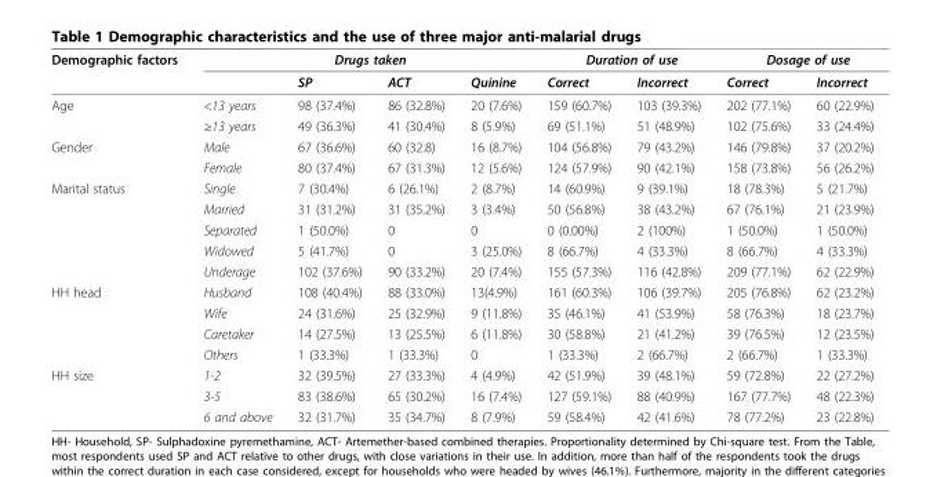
<table><thead><tr><td rowspan="2">Demographic factors</td><td colspan="4">Drugs taken</td><td colspan="2">Duration of use</td><td colspan="2">Dosage of use</td></tr><tr><td></td><td>SP</td><td>ACT</td><td>Quinine</td><td>Correct</td><td>Incorrect</td><td>Correct</td><td>Incorrect</td></tr></thead><tbody><tr><td rowspan="2">Age</td><td>&lt;13 years</td><td>98 (37.4%)</td><td>86 (32.8%)</td><td>20 (7.6%)</td><td>159 (60.7%)</td><td>103 (39.3%)</td><td>202 (77.1%)</td><td>60 (22.9%)</td></tr><tr><td>≥13 years</td><td>49 (36.3%)</td><td>41 (30.4%)</td><td>8 (5.9%)</td><td>69 (51.1%)</td><td>51 (48.9%)</td><td>102 (75.6%)</td><td>33 (24.4%)</td></tr><tr><td rowspan="2">Gender</td><td>Male</td><td>67 (36.6%)</td><td>60 (32.8)</td><td>16 (8.7%)</td><td>104 (56.8%)</td><td>79 (43.2%)</td><td>146 (79.8%)</td><td>37 (20.2%)</td></tr><tr><td>Female</td><td>80 (37.4%)</td><td>67 (31.3%)</td><td>12 (5.6%)</td><td>124 (57.9%)</td><td>90 (42.1%)</td><td>158 (73.8%)</td><td>56 (26.2%)</td></tr><tr><td rowspan="5">Marital status</td><td>Single</td><td>7 (30.4%)</td><td>6 (26.1%)</td><td>2 (8.7%)</td><td>14 (60.9%)</td><td>9 (39.1%)</td><td>18 (78.3%)</td><td>5 (21.7%)</td></tr><tr><td>Married</td><td>31 (31.2%)</td><td>31 (35.2%)</td><td>3 (3.4%)</td><td>50 (56.8%)</td><td>38 (43.2%)</td><td>67 (76.1%)</td><td>21 (23.9%)</td></tr><tr><td>Separated</td><td>1 (50.0%)</td><td>0</td><td>0</td><td>0 (0.00%)</td><td>2 (100%)</td><td>1 (50.0%)</td><td>1 (50.0%)</td></tr><tr><td>Widowed</td><td>5 (41.7%)</td><td>0</td><td>3 (25.0%)</td><td>8 (66.7%)</td><td>4 (33.3%)</td><td>8 (66.7%)</td><td>4 (33.3%)</td></tr><tr><td>Underage</td><td>102 (37.6%)</td><td>90 (33.2%)</td><td>20 (7.4%)</td><td>155 (57.3%)</td><td>116 (42.8%)</td><td>209 (77.1%)</td><td>62 (22.9%)</td></tr><tr><td rowspan="4">HH head</td><td>Husband</td><td>108 (40.4%)</td><td>88 (33.0%)</td><td>13(4.9%)</td><td>161 (60.3%)</td><td>106 (39.7%)</td><td>205 (76.8%)</td><td>62 (23.2%)</td></tr><tr><td>Wife</td><td>24 (31.6%)</td><td>25 (32.9%)</td><td>9 (11.8%)</td><td>35 (46.1%)</td><td>41 (53.9%)</td><td>58 (76.3%)</td><td>18 (23.7%)</td></tr><tr><td>Caretaker</td><td>14 (27.5%)</td><td>13 (25.5%)</td><td>6 (11.8%)</td><td>30 (58.8%)</td><td>21 (41.2%)</td><td>39 (76.5%)</td><td>12 (23.5%)</td></tr><tr><td>Others</td><td>1 (33.3%)</td><td>1 (33.3%)</td><td>0</td><td>1 (33.3%)</td><td>2 (66.7%)</td><td>2 (66.7%)</td><td>1 (33.3%)</td></tr><tr><td rowspan="3">HH size</td><td>1-2</td><td>32 (39.5%)</td><td>27 (33.3%)</td><td>4 (4.9%)</td><td>42 (51.9%)</td><td>39 (48.1%)</td><td>59 (72.8%)</td><td>22 (27.2%)</td></tr><tr><td>3-5</td><td>83 (38.6%)</td><td>65 (30.2%)</td><td>16 (7.4%)</td><td>127 (59.1%)</td><td>88 (40.9%)</td><td>167 (77.7%)</td><td>48 (22.3%)</td></tr><tr><td>6 and above</td><td>32 (31.7%)</td><td>35 (34.7%)</td><td>8 (7.9%)</td><td>59 (58.4%)</td><td>42 (41.6%)</td><td>78 (77.2%)</td><td>23 (22.8%)</td></tr></tbody></table>